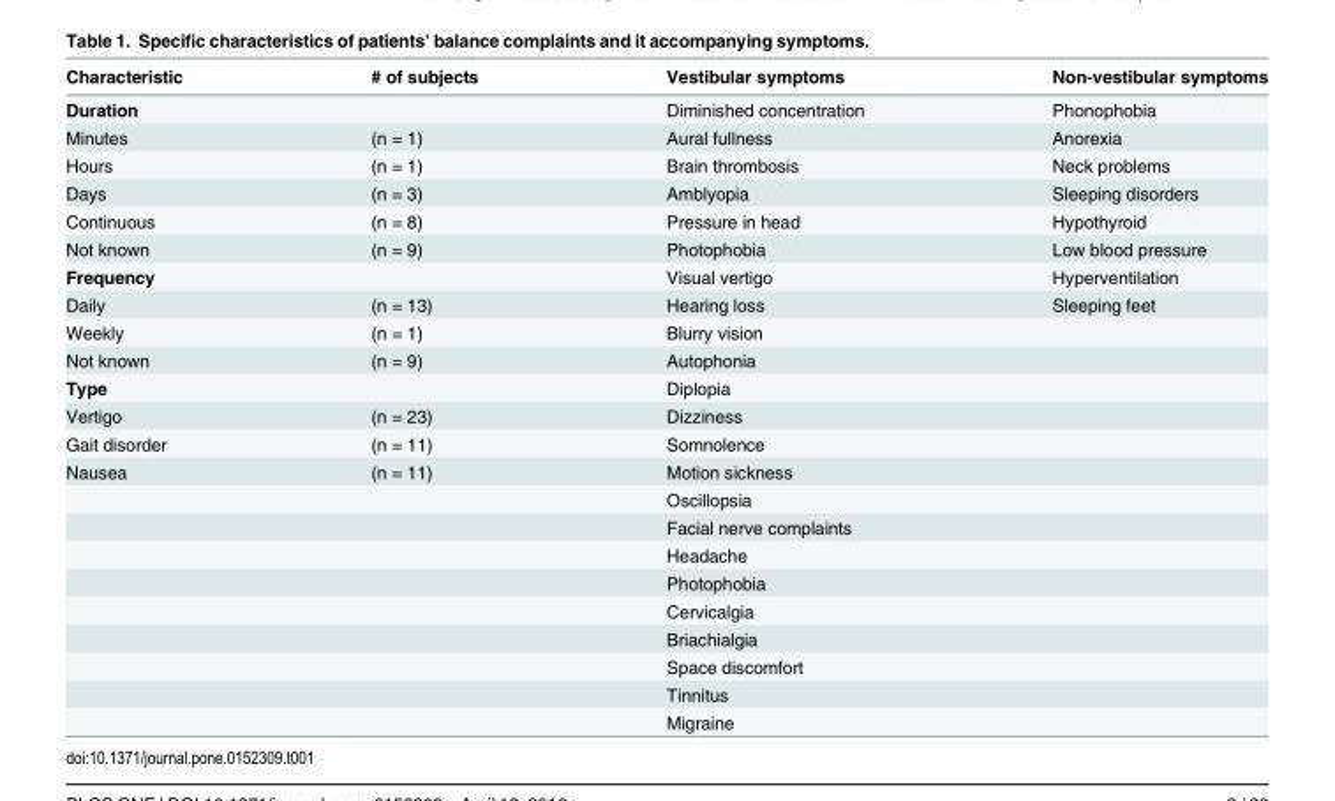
<table><thead><tr><td>Characteristic</td><td># of subjects</td><td>Vestibular symptoms</td><td>Non-vestibular symptoms</td></tr></thead><tbody><tr><td>Duration</td><td></td><td>Diminished concentration</td><td>Phonophobia</td></tr><tr><td>Minutes</td><td>(n = 1)</td><td>Aural fullness</td><td>Anorexia</td></tr><tr><td>Hours</td><td>(n = 1)</td><td>Brain thrombosis</td><td>Neck problems</td></tr><tr><td>Days</td><td>(n = 3)</td><td>Amblyopia</td><td>Sleeping disorders</td></tr><tr><td>Continuous</td><td>(n = 8)</td><td>Pressure in head</td><td>Hypothyroid</td></tr><tr><td>Not known</td><td>(n = 9)</td><td>Photophobia</td><td>Low blood pressure</td></tr><tr><td>Frequency</td><td></td><td>Visual vertigo</td><td>Hyperventilation</td></tr><tr><td>Daily</td><td>(n = 13)</td><td>Hearing loss</td><td>Sleeping feet</td></tr><tr><td>Weekly</td><td>(n = 1)</td><td>Blurry vision</td><td></td></tr><tr><td>Not known</td><td>(n = 9)</td><td>Autophonia</td><td></td></tr><tr><td>Type</td><td></td><td>Diplopia</td><td></td></tr><tr><td>Vertigo</td><td>(n = 23)</td><td>Dizziness</td><td></td></tr><tr><td>Gait disorder</td><td>(n = 11)</td><td>Somnolence</td><td></td></tr><tr><td rowspan="10">Nausea</td><td>(n = 11)</td><td>Motion sickness</td><td></td></tr><tr><td></td><td>Oscillopsia</td><td></td></tr><tr><td></td><td>Facial nerve complaints</td><td></td></tr><tr><td></td><td>Headache</td><td></td></tr><tr><td></td><td>Photophobia</td><td></td></tr><tr><td></td><td>Cervicalgia</td><td></td></tr><tr><td></td><td>Briachialgia</td><td></td></tr><tr><td></td><td>Space discomfort</td><td></td></tr><tr><td></td><td>Tinnitus</td><td></td></tr><tr><td></td><td>Migraine</td><td></td></tr></tbody></table>